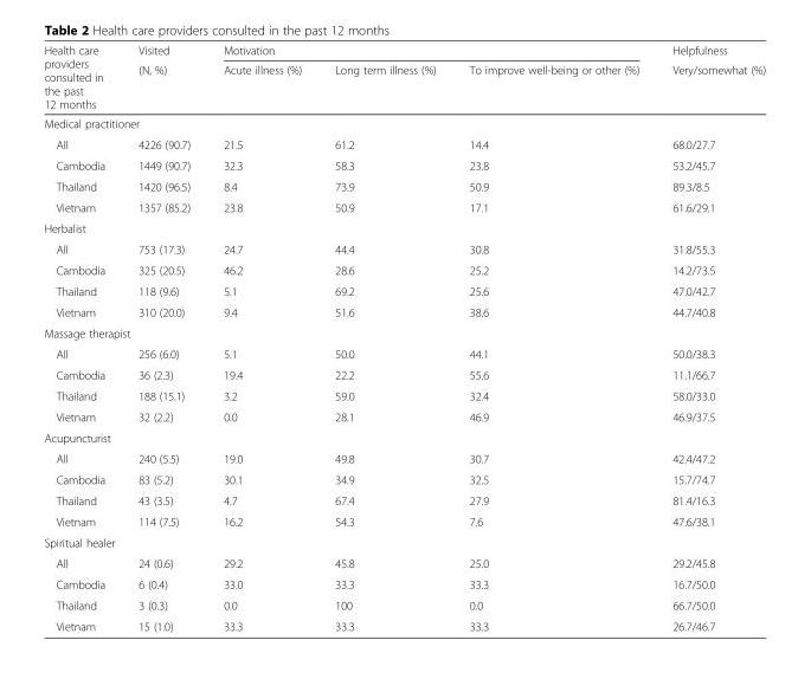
<table><thead><tr><td rowspan="2">Health care providers consulted in the past 12 months</td><td rowspan="2">Visited (N, %)</td><td colspan="3">Motivation</td><td rowspan="2">Helpfulness Very/somewhat (%)</td></tr><tr><td>Acute illness (%)</td><td>Long term illness (%)</td><td>To improve well-being or other (%)</td></tr></thead><tbody><tr><td colspan="6">Medical practitioner</td></tr><tr><td>All</td><td>4226 (90.7)</td><td>21.5</td><td>61.2</td><td>14.4</td><td>68.0/27.7</td></tr><tr><td>Cambodia</td><td>1449 (90.7)</td><td>32.3</td><td>58.3</td><td>23.8</td><td>53.2/45.7</td></tr><tr><td>Thailand</td><td>1420 (96.5)</td><td>8.4</td><td>73.9</td><td>50.9</td><td>89.3/8.5</td></tr><tr><td>Vietnam</td><td>1357 (85.2)</td><td>23.8</td><td>50.9</td><td>17.1</td><td>61.6/29.1</td></tr><tr><td colspan="6">Herbalist</td></tr><tr><td>All</td><td>753 (17.3)</td><td>24.7</td><td>44.4</td><td>30.8</td><td>31.8/55.3</td></tr><tr><td>Cambodia</td><td>325 (20.5)</td><td>46.2</td><td>28.6</td><td>25.2</td><td>14.2/73.5</td></tr><tr><td>Thailand</td><td>118 (9.6)</td><td>5.1</td><td>69.2</td><td>25.6</td><td>47.0/42.7</td></tr><tr><td>Vietnam</td><td>310 (20.0)</td><td>9.4</td><td>51.6</td><td>38.6</td><td>44.7/40.8</td></tr><tr><td colspan="6">Massage therapist</td></tr><tr><td>All</td><td>256 (6.0)</td><td>5.1</td><td>50.0</td><td>44.1</td><td>50.0/38.3</td></tr><tr><td>Cambodia</td><td>36 (2.3)</td><td>19.4</td><td>22.2</td><td>55.6</td><td>11.1/66.7</td></tr><tr><td>Thailand</td><td>188 (15.1)</td><td>3.2</td><td>59.0</td><td>32.4</td><td>58.0/33.0</td></tr><tr><td>Vietnam</td><td>32 (2.2)</td><td>0.0</td><td>28.1</td><td>46.9</td><td>46.9/37.5</td></tr><tr><td colspan="6">Acupuncturist</td></tr><tr><td>All</td><td>240 (5.5)</td><td>19.0</td><td>49.8</td><td>30.7</td><td>42.4/47.2</td></tr><tr><td>Cambodia</td><td>83 (5.2)</td><td>30.1</td><td>34.9</td><td>32.5</td><td>15.7/74.7</td></tr><tr><td>Thailand</td><td>43 (3.5)</td><td>4.7</td><td>67.4</td><td>27.9</td><td>81.4/16.3</td></tr><tr><td>Vietnam</td><td>114 (7.5)</td><td>16.2</td><td>54.3</td><td>7.6</td><td>47.6/38.1</td></tr><tr><td colspan="6">Spiritual healer</td></tr><tr><td>All</td><td>24 (0.6)</td><td>29.2</td><td>45.8</td><td>25.0</td><td>29.2/45.8</td></tr><tr><td>Cambodia</td><td>6 (0.4)</td><td>33.0</td><td>33.3</td><td>33.3</td><td>16.7/50.0</td></tr><tr><td>Thailand</td><td>3 (0.3)</td><td>0.0</td><td>100</td><td>0.0</td><td>66.7/50.0</td></tr><tr><td>Vietnam</td><td>15 (1.0)</td><td>33.3</td><td>33.3</td><td>33.3</td><td>26.7/46.7</td></tr></tbody></table>